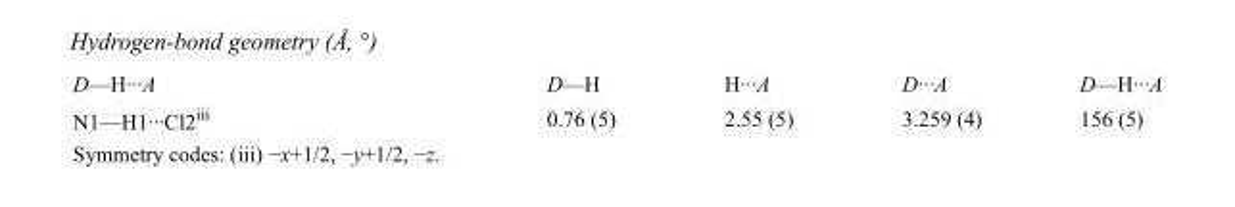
<table><tbody><tr><td>D—H···A</td><td>D—H</td><td>H···A</td><td>D···A</td><td>D—H···A</td></tr><tr><td>N1—H1···Cl2<sup>iii</sup></td><td>0.76 (5)</td><td>2.55 (5)</td><td>3.259 (4)</td><td>156 (5)</td></tr></tbody></table>